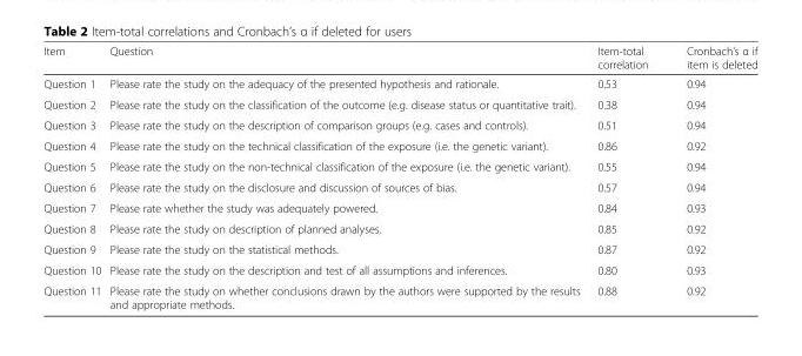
<table><thead><tr><td>Item</td><td>Question</td><td>Item-total correlation</td><td>Cronbach’s α if item is deleted</td></tr></thead><tbody><tr><td>Question 1</td><td>Please rate the study on the adequacy of the presented hypothesis and rationale.</td><td>0.53</td><td>0.94</td></tr><tr><td>Question 2</td><td>Please rate the study on the classification of the outcome (e.g. disease status or quantitative trait).</td><td>0.38</td><td>0.94</td></tr><tr><td>Question 3</td><td>Please rate the study on the description of comparison groups (e.g. cases and controls).</td><td>0.51</td><td>0.94</td></tr><tr><td>Question 4</td><td>Please rate the study on the technical classification of the exposure (i.e. the genetic variant).</td><td>0.86</td><td>0.92</td></tr><tr><td>Question 5</td><td>Please rate the study on the non-technical classification of the exposure (i.e. the genetic variant).</td><td>0.55</td><td>0.94</td></tr><tr><td>Question 6</td><td>Please rate the study on the disclosure and discussion of sources of bias.</td><td>0.57</td><td>0.94</td></tr><tr><td>Question 7</td><td>Please rate whether the study was adequately powered.</td><td>0.84</td><td>0.93</td></tr><tr><td>Question 8</td><td>Please rate the study on description of planned analyses.</td><td>0.85</td><td>0.92</td></tr><tr><td>Question 9</td><td>Please rate the study on the statistical methods.</td><td>0.87</td><td>0.92</td></tr><tr><td>Question 10</td><td>Please rate the study on the description and test of all assumptions and inferences.</td><td>0.80</td><td>0.93</td></tr><tr><td>Question 11</td><td>Please rate the study on whether conclusions drawn by the authors were supported by the results and appropriate methods.</td><td>0.88</td><td>0.92</td></tr></tbody></table>